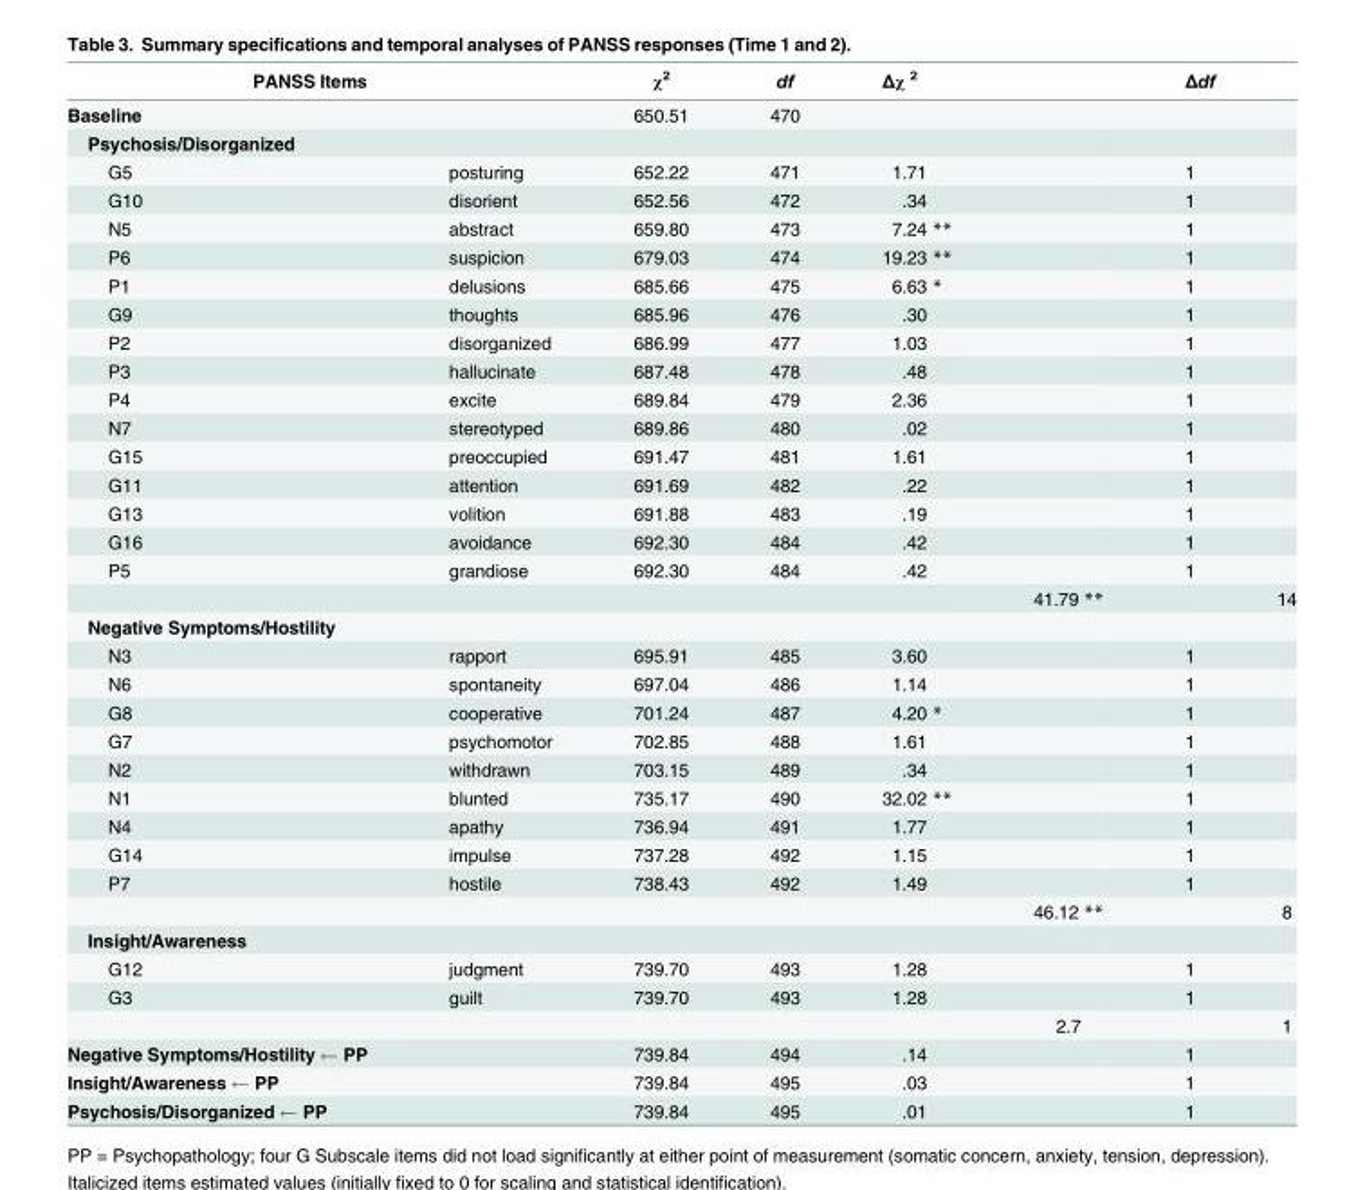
<table><thead><tr><td colspan="2">PANSS Items</td><td rowspan="2">χ<sup>2</sup> 650.51</td><td rowspan="2">df 470</td><td colspan="2">Δχ <sup>2</sup></td><td colspan="2">Δdf</td></tr><tr><td>Baseline</td><td></td><td></td><td></td><td></td><td></td></tr></thead><tbody><tr><td colspan="8">Psychosis/Disorganized</td></tr><tr><td>G5</td><td>posturing</td><td>652.22</td><td>471</td><td>1.71</td><td></td><td>1</td><td></td></tr><tr><td>G10</td><td>disorient</td><td>652.56</td><td>472</td><td>.34</td><td></td><td>1</td><td></td></tr><tr><td>N5</td><td>abstract</td><td>659.80</td><td>473</td><td>7.24 **</td><td></td><td>1</td><td></td></tr><tr><td>P6</td><td>suspicion</td><td>679.03</td><td>474</td><td>19.23 **</td><td></td><td>1</td><td></td></tr><tr><td>P1</td><td>delusions</td><td>685.66</td><td>475</td><td>6.63 *</td><td></td><td>1</td><td></td></tr><tr><td>G9</td><td>thoughts</td><td>685.96</td><td>476</td><td>.30</td><td></td><td>1</td><td></td></tr><tr><td>P2</td><td>disorganized</td><td>686.99</td><td>477</td><td>1.03</td><td></td><td>1</td><td></td></tr><tr><td>P3</td><td>hallucinate</td><td>687.48</td><td>478</td><td>.48</td><td></td><td>1</td><td></td></tr><tr><td>P4</td><td>excite</td><td>689.84</td><td>479</td><td>2.36</td><td></td><td>1</td><td></td></tr><tr><td>N7</td><td>stereotyped</td><td>689.86</td><td>480</td><td>.02</td><td></td><td>1</td><td></td></tr><tr><td>G15</td><td>preoccupied</td><td>691.47</td><td>481</td><td>1.61</td><td></td><td>1</td><td></td></tr><tr><td>G11</td><td>attention</td><td>691.69</td><td>482</td><td>.22</td><td></td><td>1</td><td></td></tr><tr><td>G13</td><td>volition</td><td>691.88</td><td>483</td><td>.19</td><td></td><td>1</td><td></td></tr><tr><td>G16</td><td>avoidance</td><td>692.30</td><td>484</td><td>.42</td><td></td><td>1</td><td></td></tr><tr><td rowspan="2">P5</td><td>grandiose</td><td>692.30</td><td>484</td><td>.42</td><td></td><td>1</td><td></td></tr><tr><td></td><td></td><td></td><td></td><td>41.79 **</td><td></td><td>14</td></tr><tr><td colspan="8">Negative Symptoms/Hostility</td></tr><tr><td>N3</td><td>rapport</td><td>695.91</td><td>485</td><td>3.60</td><td></td><td>1</td><td></td></tr><tr><td>N6</td><td>spontaneity</td><td>697.04</td><td>486</td><td>1.14</td><td></td><td>1</td><td></td></tr><tr><td>G8</td><td>cooperative</td><td>701.24</td><td>487</td><td>4.20 *</td><td></td><td>1</td><td></td></tr><tr><td>G7</td><td>psychomotor</td><td>702.85</td><td>488</td><td>1.61</td><td></td><td>1</td><td></td></tr><tr><td>N2</td><td>withdrawn</td><td>703.15</td><td>489</td><td>.34</td><td></td><td>1</td><td></td></tr><tr><td>N1</td><td>blunted</td><td>735.17</td><td>490</td><td>32.02 **</td><td></td><td>1</td><td></td></tr><tr><td>N4</td><td>apathy</td><td>736.94</td><td>491</td><td>1.77</td><td></td><td>1</td><td></td></tr><tr><td>G14</td><td>impulse</td><td>737.28</td><td>492</td><td>1.15</td><td></td><td>1</td><td></td></tr><tr><td rowspan="2">P7</td><td>hostile</td><td>738.43</td><td>492</td><td>1.49</td><td></td><td>1</td><td></td></tr><tr><td></td><td></td><td></td><td></td><td>46.12 **</td><td></td><td>8</td></tr><tr><td colspan="8">Insight/Awareness</td></tr><tr><td>G12</td><td>judgment</td><td>739.70</td><td>493</td><td>1.28</td><td></td><td>1</td><td></td></tr><tr><td rowspan="2">G3</td><td>guilt</td><td>739.70</td><td>493</td><td>1.28</td><td></td><td>1</td><td></td></tr><tr><td></td><td></td><td></td><td></td><td>2.7</td><td></td><td>1</td></tr><tr><td>Negative Symptoms/Hostility PP</td><td></td><td>739.84</td><td>494</td><td>.14</td><td></td><td>1</td><td></td></tr><tr><td>Insight/Awareness PP</td><td></td><td>739.84</td><td>495</td><td>.03</td><td></td><td>1</td><td></td></tr><tr><td>Psychosis/Disorganized PP</td><td></td><td>739.84</td><td>495</td><td>.01</td><td></td><td>1</td><td></td></tr></tbody></table>